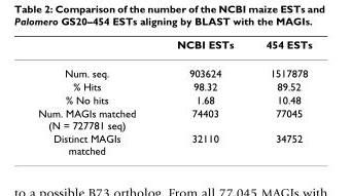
<table><thead><tr><td></td><td>NCBI ESTs</td><td>454 ESTs</td></tr></thead><tbody><tr><td>Num. seq.</td><td>903624</td><td>1517878</td></tr><tr><td>% Hits</td><td>98.32</td><td>89.52</td></tr><tr><td>% No hits</td><td>1.68</td><td>10.48</td></tr><tr><td>Num. MAGIs matched (N = 727781 seq)</td><td>74403</td><td>77045</td></tr><tr><td>Distinct MAGIs matched</td><td>32110</td><td>34752</td></tr></tbody></table>